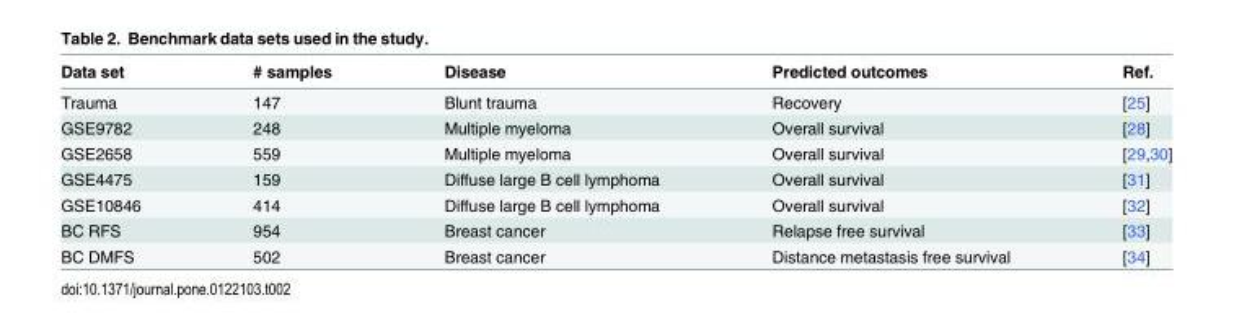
<table><thead><tr><td>Data set</td><td># samples</td><td>Disease</td><td>Predicted outcomes</td><td>Ref.</td></tr></thead><tbody><tr><td>Trauma</td><td>147</td><td>Blunt trauma</td><td>Recovery</td><td>[25]</td></tr><tr><td>GSE9782</td><td>248</td><td>Multiple myeloma</td><td>Overall survival</td><td>[28]</td></tr><tr><td>GSE2658</td><td>559</td><td>Multiple myeloma</td><td>Overall survival</td><td>[29,30]</td></tr><tr><td>GSE4475</td><td>159</td><td>Diffuse large B cell lymphoma</td><td>Overall survival</td><td>[31]</td></tr><tr><td>GSE10846</td><td>414</td><td>Diffuse large B cell lymphoma</td><td>Overall survival</td><td>[32]</td></tr><tr><td>BC RFS</td><td>954</td><td>Breast cancer</td><td>Relapse free survival</td><td>[33]</td></tr><tr><td>BC DMFS</td><td>502</td><td>Breast cancer</td><td>Distance metastasis free survival</td><td>[34]</td></tr></tbody></table>